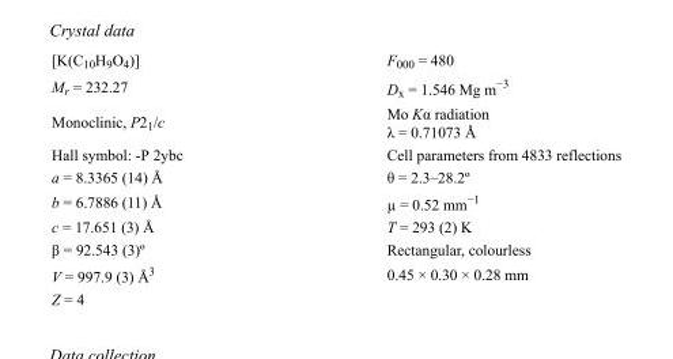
<table><tbody><tr><td>[K(C<sub>10</sub>H<sub>9</sub>O<sub>4</sub>)]</td><td>F<sub>000</sub> = 480</td></tr><tr><td>M<sub>r</sub> = 232.27</td><td>D<sub>x</sub> = 1.546 Mg m<sup>−3</sup></td></tr><tr><td>Monoclinic, P2<sub>1</sub>/c</td><td>Mo Kα radiation λ = 0.71073 Å</td></tr><tr><td>Hall symbol: -P 2ybc</td><td>Cell parameters from 4833 reflections</td></tr><tr><td>a = 8.3365 (14) Å</td><td>θ = 2.3–28.2º</td></tr><tr><td>b = 6.7886 (11) Å</td><td>µ = 0.52 mm<sup>−1</sup></td></tr><tr><td>c = 17.651 (3) Å</td><td>T = 293 (2) K</td></tr><tr><td>β = 92.543 (3)º</td><td>Rectangular, colourless</td></tr><tr><td>V = 997.9 (3) Å<sup>3</sup></td><td>0.45 × 0.30 × 0.28 mm</td></tr><tr><td>Z = 4</td><td></td></tr></tbody></table>